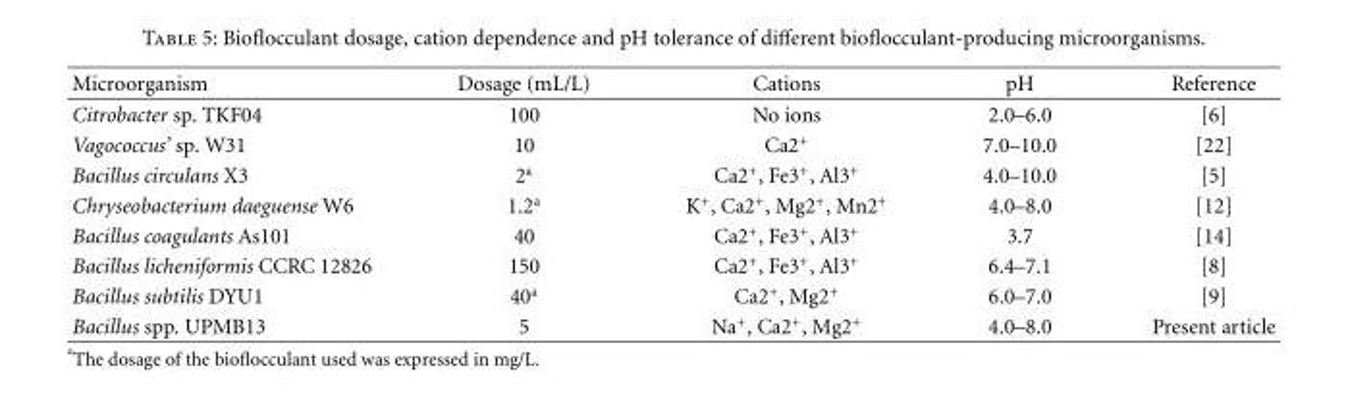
<table><thead><tr><td>Microorganism</td><td>Dosage (mL/L)</td><td>Cations</td><td>pH</td><td>Reference</td></tr></thead><tbody><tr><td>Citrobacter sp. TKF04</td><td>100</td><td>No ions</td><td>2.0–6.0</td><td>[6]</td></tr><tr><td>Vagococcus’ sp. W31</td><td>10</td><td>Ca2<sup>+</sup></td><td>7.0–10.0</td><td>[22]</td></tr><tr><td>Bacillus circulans X3</td><td>2<sup>a</sup></td><td>Ca2<sup>+</sup>, Fe3<sup>+</sup>, Al3<sup>+</sup></td><td>4.0–10.0</td><td>[5]</td></tr><tr><td>Chryseobacterium daeguense W6</td><td>1.2<sup>a</sup></td><td>K<sup>+</sup>, Ca2<sup>+</sup>, Mg2<sup>+</sup>, Mn2<sup>+</sup></td><td>4.0–8.0</td><td>[12]</td></tr><tr><td>Bacillus coagulants As101</td><td>40</td><td>Ca2<sup>+</sup>, Fe3<sup>+</sup>, Al3<sup>+</sup></td><td>3.7</td><td>[14]</td></tr><tr><td>Bacillus licheniformis CCRC 12826</td><td>150</td><td>Ca2<sup>+</sup>, Fe3<sup>+</sup>, Al3<sup>+</sup></td><td>6.4–7.1</td><td>[8]</td></tr><tr><td>Bacillus subtilis DYU1</td><td>40<sup>a</sup></td><td>Ca2<sup>+</sup>, Mg2<sup>+</sup></td><td>6.0–7.0</td><td>[9]</td></tr><tr><td>Bacillus spp. UPMB13</td><td>5</td><td>Na<sup>+</sup>, Ca2<sup>+</sup>, Mg2<sup>+</sup></td><td>4.0–8.0</td><td>Present article</td></tr></tbody></table>